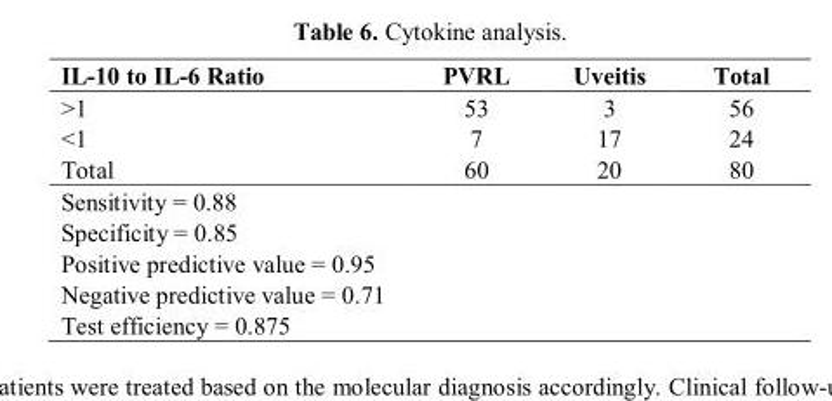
<table><thead><tr><td>IL-10 to IL-6 Ratio</td><td>PVRL</td><td>Uveitis</td><td>Total</td></tr></thead><tbody><tr><td>&gt;1</td><td>53</td><td>3</td><td>56</td></tr><tr><td>&lt;1</td><td>7</td><td>17</td><td>24</td></tr><tr><td>Total</td><td>60</td><td>20</td><td>80</td></tr><tr><td colspan="4">Sensitivity = 0.88</td></tr><tr><td colspan="4">Specificity = 0.85</td></tr><tr><td colspan="4">Positive predictive value = 0.95</td></tr><tr><td colspan="4">Negative predictive value = 0.71</td></tr><tr><td>Test efficiency = 0.875</td><td></td><td></td><td></td></tr></tbody></table>